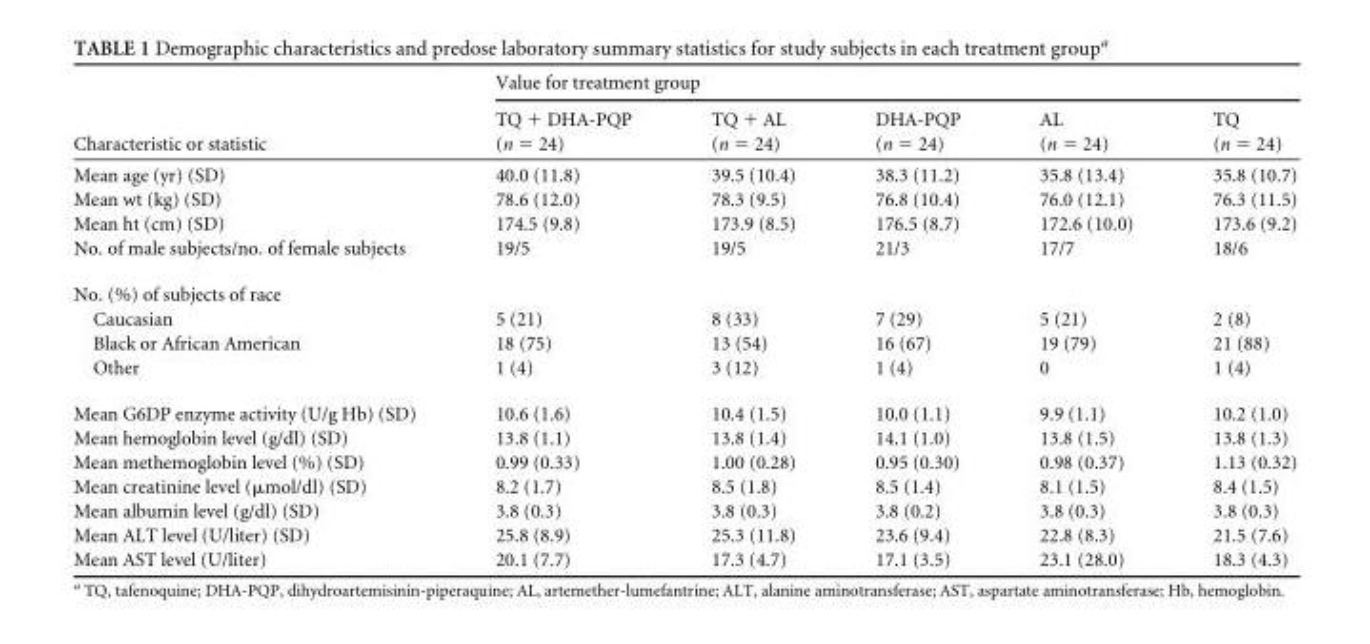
<table><thead><tr><td rowspan="2">Characteristic or statistic</td><td colspan="5">Value for treatment group</td></tr><tr><td>TQ + DHA-PQP (n = 24)</td><td>TQ + AL (n = 24)</td><td>DHA-PQP (n = 24)</td><td>AL (n = 24)</td><td>TQ (n = 24)</td></tr></thead><tbody><tr><td>Mean age (yr) (SD)</td><td>40.0 (11.8)</td><td>39.5 (10.4)</td><td>38.3 (11.2)</td><td>35.8 (13.4)</td><td>35.8 (10.7)</td></tr><tr><td>Mean wt (kg) (SD)</td><td>78.6 (12.0)</td><td>78.3 (9.5)</td><td>76.8 (10.4)</td><td>76.0 (12.1)</td><td>76.3 (11.5)</td></tr><tr><td>Mean ht (cm) (SD)</td><td>174.5 (9.8)</td><td>173.9 (8.5)</td><td>176.5 (8.7)</td><td>172.6 (10.0)</td><td>173.6 (9.2)</td></tr><tr><td>No. of male subjects/no. of female subjects</td><td>19/5</td><td>19/5</td><td>21/3</td><td>17/7</td><td>18/6</td></tr><tr><td colspan="6">No. (%) of subjects of race</td></tr><tr><td>Caucasian</td><td>5 (21)</td><td>8 (33)</td><td>7 (29)</td><td>5 (21)</td><td>2 (8)</td></tr><tr><td>Black or African American</td><td>18 (75)</td><td>13 (54)</td><td>16 (67)</td><td>19 (79)</td><td>21 (88)</td></tr><tr><td>Other</td><td>1 (4)</td><td>3 (12)</td><td>1 (4)</td><td>0</td><td>1 (4)</td></tr><tr><td>Mean G6DP enzyme activity (U/g Hb) (SD)</td><td>10.6 (1.6)</td><td>10.4 (1.5)</td><td>10.0 (1.1)</td><td>9.9 (1.1)</td><td>10.2 (1.0)</td></tr><tr><td>Mean hemoglobin level (g/dl) (SD)</td><td>13.8 (1.1)</td><td>13.8 (1.4)</td><td>14.1 (1.0)</td><td>13.8 (1.5)</td><td>13.8 (1.3)</td></tr><tr><td>Mean methemoglobin level (%) (SD)</td><td>0.99 (0.33)</td><td>1.00 (0.28)</td><td>0.95 (0.30)</td><td>0.98 (0.37)</td><td>1.13 (0.32)</td></tr><tr><td>Mean creatinine level (μmol/dl) (SD)</td><td>8.2 (1.7)</td><td>8.5 (1.8)</td><td>8.5 (1.4)</td><td>8.1 (1.5)</td><td>8.4 (1.5)</td></tr><tr><td>Mean albumin level (g/dl) (SD)</td><td>3.8 (0.3)</td><td>3.8 (0.3)</td><td>3.8 (0.2)</td><td>3.8 (0.3)</td><td>3.8 (0.3)</td></tr><tr><td>Mean ALT level (U/liter) (SD)</td><td>25.8 (8.9)</td><td>25.3 (11.8)</td><td>23.6 (9.4)</td><td>22.8 (8.3)</td><td>21.5 (7.6)</td></tr><tr><td>Mean AST level (U/liter)</td><td>20.1 (7.7)</td><td>17.3 (4.7)</td><td>17.1 (3.5)</td><td>23.1 (28.0)</td><td>18.3 (4.3)</td></tr></tbody></table>